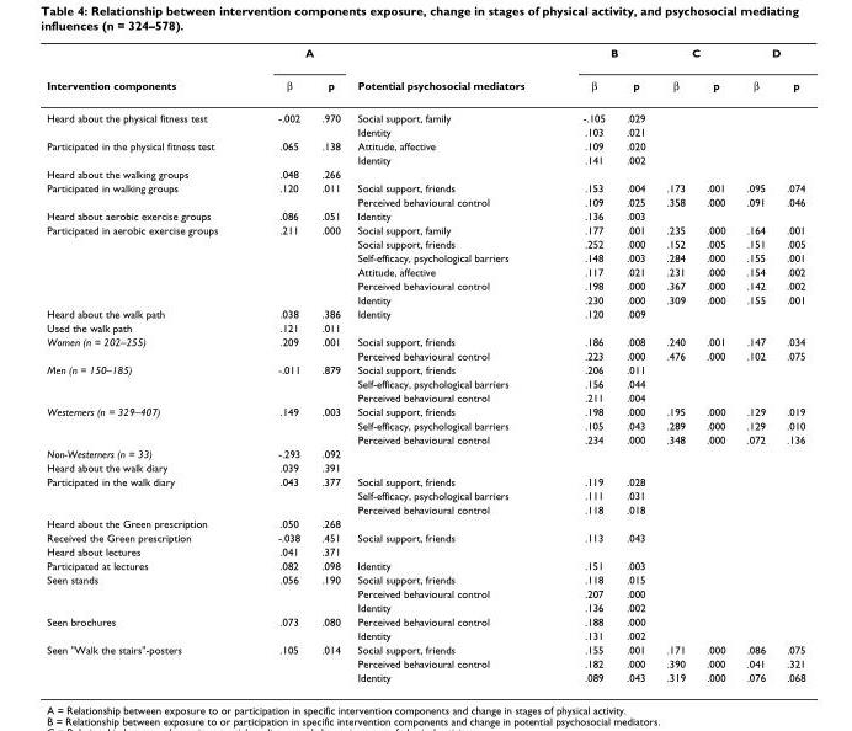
<table><thead><tr><td rowspan="2">Intervention components</td><td colspan="2">A</td><td rowspan="2">Potential psychosocial mediators</td><td colspan="2">B</td><td colspan="2">C</td><td colspan="2">D</td></tr><tr><td>β</td><td>p</td><td>β</td><td>p</td><td>β</td><td>p</td><td>β</td><td>p</td></tr></thead><tbody><tr><td rowspan="2">Heard about the physical fitness test</td><td>-.002</td><td>.970</td><td>Social support, family</td><td>-.105</td><td>.029</td><td></td><td></td><td></td><td></td></tr><tr><td></td><td></td><td>Identity</td><td>.103</td><td>.021</td><td></td><td></td><td></td><td></td></tr><tr><td rowspan="2">Participated in the physical fitness test</td><td>.065</td><td>.138</td><td>Attitude, affective</td><td>.109</td><td>.020</td><td></td><td></td><td></td><td></td></tr><tr><td></td><td></td><td>Identity</td><td>.141</td><td>.002</td><td></td><td></td><td></td><td></td></tr><tr><td>Heard about the walking groups</td><td>.048</td><td>.266</td><td></td><td></td><td></td><td></td><td></td><td></td><td></td></tr><tr><td rowspan="2">Participated in walking groups</td><td>.120</td><td>.011</td><td>Social support, friends</td><td>.153</td><td>.004</td><td>.173</td><td>.001</td><td>.095</td><td>.074</td></tr><tr><td></td><td></td><td>Perceived behavioural control</td><td>.109</td><td>.025</td><td>.358</td><td>.000</td><td>.091</td><td>.046</td></tr><tr><td>Heard about aerobic exercise groups</td><td>.086</td><td>.051</td><td>Identity</td><td>.136</td><td>.003</td><td></td><td></td><td></td><td></td></tr><tr><td rowspan="6">Participated in aerobic exercise groups</td><td>.211</td><td>.000</td><td>Social support, family</td><td>.177</td><td>.001</td><td>.235</td><td>.000</td><td>.164</td><td>.001</td></tr><tr><td></td><td></td><td>Social support, friends</td><td>.252</td><td>.000</td><td>.152</td><td>.005</td><td>.151</td><td>.005</td></tr><tr><td></td><td></td><td>Self-efficacy, psychological barriers</td><td>.148</td><td>.003</td><td>.284</td><td>.000</td><td>.155</td><td>.001</td></tr><tr><td></td><td></td><td>Attitude, affective</td><td>.117</td><td>.021</td><td>.231</td><td>.000</td><td>.154</td><td>.002</td></tr><tr><td></td><td></td><td>Perceived behavioural control</td><td>.198</td><td>.000</td><td>.367</td><td>.000</td><td>.142</td><td>.002</td></tr><tr><td></td><td></td><td>Identity</td><td>.230</td><td>.000</td><td>.309</td><td>.000</td><td>.155</td><td>.001</td></tr><tr><td>Heard about the walk path</td><td>.038</td><td>.386</td><td>Identity</td><td>.120</td><td>.009</td><td></td><td></td><td></td><td></td></tr><tr><td>Used the walk path</td><td>.121</td><td>.011</td><td></td><td></td><td></td><td></td><td></td><td></td><td></td></tr><tr><td rowspan="2">Women (n = 202–255)</td><td>.209</td><td>.001</td><td>Social support, friends</td><td>.186</td><td>.008</td><td>.240</td><td>.001</td><td>.147</td><td>.034</td></tr><tr><td></td><td></td><td>Perceived behavioural control</td><td>.223</td><td>.000</td><td>.476</td><td>.000</td><td>.102</td><td>.075</td></tr><tr><td rowspan="3">Men (n = 150–185)</td><td>-.011</td><td>.879</td><td>Social support, friends</td><td>.206</td><td>.011</td><td></td><td></td><td></td><td></td></tr><tr><td></td><td></td><td>Self-efficacy, psychological barriers</td><td>.156</td><td>.044</td><td></td><td></td><td></td><td></td></tr><tr><td></td><td></td><td>Perceived behavioural control</td><td>.211</td><td>.004</td><td></td><td></td><td></td><td></td></tr><tr><td rowspan="3">Westerners (n = 329–407)</td><td>.149</td><td>.003</td><td>Social support, friends</td><td>.198</td><td>.000</td><td>.195</td><td>.000</td><td>.129</td><td>.019</td></tr><tr><td></td><td></td><td>Self-efficacy, psychological barriers</td><td>.105</td><td>.043</td><td>.289</td><td>.000</td><td>.129</td><td>.010</td></tr><tr><td></td><td></td><td>Perceived behavioural control</td><td>.234</td><td>.000</td><td>.348</td><td>.000</td><td>.072</td><td>.136</td></tr><tr><td>Non-Westerners (n = 33)</td><td>-.293</td><td>.092</td><td></td><td></td><td></td><td></td><td></td><td></td><td></td></tr><tr><td>Heard about the walk diary</td><td>.039</td><td>.391</td><td></td><td></td><td></td><td></td><td></td><td></td><td></td></tr><tr><td rowspan="3">Participated in the walk diary</td><td>.043</td><td>.377</td><td>Social support, friends</td><td>.119</td><td>.028</td><td></td><td></td><td></td><td></td></tr><tr><td></td><td></td><td>Self-efficacy, psychological barriers</td><td>.111</td><td>.031</td><td></td><td></td><td></td><td></td></tr><tr><td></td><td></td><td>Perceived behavioural control</td><td>.118</td><td>.018</td><td></td><td></td><td></td><td></td></tr><tr><td>Heard about the Green prescription</td><td>.050</td><td>.268</td><td></td><td></td><td></td><td></td><td></td><td></td><td></td></tr><tr><td>Received the Green prescription</td><td>-.038</td><td>.451</td><td>Social support, friends</td><td>.113</td><td>.043</td><td></td><td></td><td></td><td></td></tr><tr><td>Heard about lectures</td><td>.041</td><td>.371</td><td></td><td></td><td></td><td></td><td></td><td></td><td></td></tr><tr><td>Participated at lectures</td><td>.082</td><td>.098</td><td>Identity</td><td>.151</td><td>.003</td><td></td><td></td><td></td><td></td></tr><tr><td rowspan="3">Seen stands</td><td>.056</td><td>.190</td><td>Social support, friends</td><td>.118</td><td>.015</td><td></td><td></td><td></td><td></td></tr><tr><td></td><td></td><td>Perceived behavioural control</td><td>.207</td><td>.000</td><td></td><td></td><td></td><td></td></tr><tr><td></td><td></td><td>Identity</td><td>.136</td><td>.002</td><td></td><td></td><td></td><td></td></tr><tr><td rowspan="2">Seen brochures</td><td>.073</td><td>.080</td><td>Perceived behavioural control</td><td>.188</td><td>.000</td><td></td><td></td><td></td><td></td></tr><tr><td></td><td></td><td>Identity</td><td>.131</td><td>.002</td><td></td><td></td><td></td><td></td></tr><tr><td rowspan="3">Seen &quot;Walk the stairs&quot;-posters</td><td>.105</td><td>.014</td><td>Social support, friends</td><td>.155</td><td>.001</td><td>.171</td><td>.000</td><td>.086</td><td>.075</td></tr><tr><td></td><td></td><td>Perceived behavioural control</td><td>.182</td><td>.000</td><td>.390</td><td>.000</td><td>.041</td><td>.321</td></tr><tr><td></td><td></td><td>Identity</td><td>.089</td><td>.043</td><td>.319</td><td>.000</td><td>.076</td><td>.068</td></tr></tbody></table>